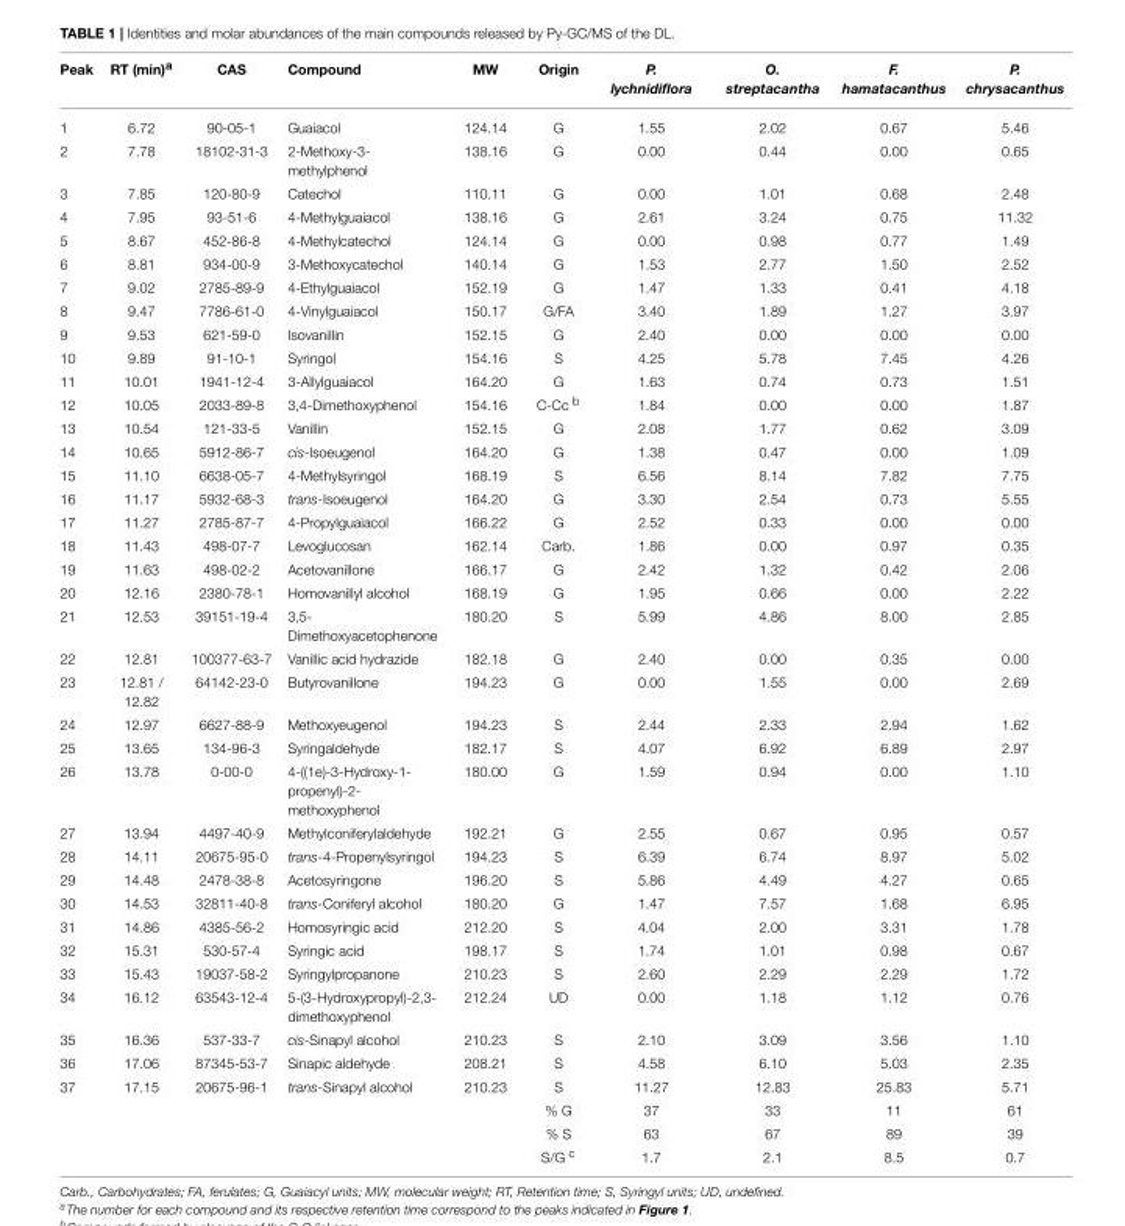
<table><thead><tr><td>Peak</td><td>RT (min)<sup>a</sup></td><td>CAS</td><td>Compound</td><td>MW</td><td>Origin</td><td>P. lychnidiflora</td><td>O. streptacantha</td><td>F. hamatacanthus</td><td>P. chrysacanthus</td></tr></thead><tbody><tr><td>1</td><td>6.72</td><td>90-05-1</td><td>Guaiacol</td><td>124.14</td><td>G</td><td>1.55</td><td>2.02</td><td>0.67</td><td>5.46</td></tr><tr><td>2</td><td>7.78</td><td>18102-31-3</td><td>2-Methoxy-3- methylphenol</td><td>138.16</td><td>G</td><td>0.00</td><td>0.44</td><td>0.00</td><td>0.65</td></tr><tr><td>3</td><td>7.85</td><td>120-80-9</td><td>Catechol</td><td>110.11</td><td>G</td><td>0.00</td><td>1.01</td><td>0.68</td><td>2.48</td></tr><tr><td>4</td><td>7.95</td><td>93-51-6</td><td>4-Methylguaiacol</td><td>138.16</td><td>G</td><td>2.61</td><td>3.24</td><td>0.75</td><td>11.32</td></tr><tr><td>5</td><td>8.67</td><td>452-86-8</td><td>4-Methylcatechol</td><td>124.14</td><td>G</td><td>0.00</td><td>0.98</td><td>0.77</td><td>1.49</td></tr><tr><td>6</td><td>8.81</td><td>934-00-9</td><td>3-Methoxycatechol</td><td>140.14</td><td>G</td><td>1.53</td><td>2.77</td><td>1.50</td><td>2.52</td></tr><tr><td>7</td><td>9.02</td><td>2785-89-9</td><td>4-Ethylguaiacol</td><td>152.19</td><td>G</td><td>1.47</td><td>1.33</td><td>0.41</td><td>4.18</td></tr><tr><td>8</td><td>9.47</td><td>7786-61-0</td><td>4-Vinylguaiacol</td><td>150.17</td><td>G/FA</td><td>3.40</td><td>1.89</td><td>1.27</td><td>3.97</td></tr><tr><td>9</td><td>9.53</td><td>621-59-0</td><td>Isovanillin</td><td>152.15</td><td>G</td><td>2.40</td><td>0.00</td><td>0.00</td><td>0.00</td></tr><tr><td>10</td><td>9.89</td><td>91-10-1</td><td>Syringol</td><td>154.16</td><td>S</td><td>4.25</td><td>5.78</td><td>7.45</td><td>4.26</td></tr><tr><td>11</td><td>10.01</td><td>1941-12-4</td><td>3-Allylguaiacol</td><td>164.20</td><td>G</td><td>1.63</td><td>0.74</td><td>0.73</td><td>1.51</td></tr><tr><td>12</td><td>10.05</td><td>2033-89-8</td><td>3,4-Dimethoxyphenol</td><td>154.16</td><td>C-Cc <sup>b</sup></td><td>1.84</td><td>0.00</td><td>0.00</td><td>1.87</td></tr><tr><td>13</td><td>10.54</td><td>121-33-5</td><td>Vanillin</td><td>152.15</td><td>G</td><td>2.08</td><td>1.77</td><td>0.62</td><td>3.09</td></tr><tr><td>14</td><td>10.65</td><td>5912-86-7</td><td>cis-Isoeugenol</td><td>164.20</td><td>G</td><td>1.38</td><td>0.47</td><td>0.00</td><td>1.09</td></tr><tr><td>15</td><td>11.10</td><td>6638-05-7</td><td>4-Methylsyringol</td><td>168.19</td><td>S</td><td>6.56</td><td>8.14</td><td>7.82</td><td>7.75</td></tr><tr><td>16</td><td>11.17</td><td>5932-68-3</td><td>trans-Isoeugenol</td><td>164.20</td><td>G</td><td>3.30</td><td>2.54</td><td>0.73</td><td>5.55</td></tr><tr><td>17</td><td>11.27</td><td>2785-87-7</td><td>4-Propylguaiacol</td><td>166.22</td><td>G</td><td>2.52</td><td>0.33</td><td>0.00</td><td>0.00</td></tr><tr><td>18</td><td>11.43</td><td>498-07-7</td><td>Levoglucosan</td><td>162.14</td><td>Carb.</td><td>1.86</td><td>0.00</td><td>0.97</td><td>0.35</td></tr><tr><td>19</td><td>11.63</td><td>498-02-2</td><td>Acetovanillone</td><td>166.17</td><td>G</td><td>2.42</td><td>1.32</td><td>0.42</td><td>2.06</td></tr><tr><td>20</td><td>12.16</td><td>2380-78-1</td><td>Homovanillyl alcohol</td><td>168.19</td><td>G</td><td>1.95</td><td>0.66</td><td>0.00</td><td>2.22</td></tr><tr><td>21</td><td>12.53</td><td>39151-19-4</td><td>3,5- Dimethoxyacetophenone</td><td>180.20</td><td>S</td><td>5.99</td><td>4.86</td><td>8.00</td><td>2.85</td></tr><tr><td>22</td><td>12.81</td><td>100377-63-7</td><td>Vanillic acid hydrazide</td><td>182.18</td><td>G</td><td>2.40</td><td>0.00</td><td>0.35</td><td>0.00</td></tr><tr><td>23</td><td>12.81 / 12.82</td><td>64142-23-0</td><td>Butyrovanillone</td><td>194.23</td><td>G</td><td>0.00</td><td>1.55</td><td>0.00</td><td>2.69</td></tr><tr><td>24</td><td>12.97</td><td>6627-88-9</td><td>Methoxyeugenol</td><td>194.23</td><td>S</td><td>2.44</td><td>2.33</td><td>2.94</td><td>1.62</td></tr><tr><td>25</td><td>13.65</td><td>134-96-3</td><td>Syringaldehyde</td><td>182.17</td><td>S</td><td>4.07</td><td>6.92</td><td>6.89</td><td>2.97</td></tr><tr><td>26</td><td>13.78</td><td>0-00-0</td><td>4-((1e)-3-Hydroxy-1- propenyl)-2- methoxyphenol</td><td>180.00</td><td>G</td><td>1.59</td><td>0.94</td><td>0.00</td><td>1.10</td></tr><tr><td>27</td><td>13.94</td><td>4497-40-9</td><td>Methylconiferylaldehyde</td><td>192.21</td><td>G</td><td>2.55</td><td>0.67</td><td>0.95</td><td>0.57</td></tr><tr><td>28</td><td>14.11</td><td>20675-95-0</td><td>trans-4-Propenylsyringol</td><td>194.23</td><td>S</td><td>6.39</td><td>6.74</td><td>8.97</td><td>5.02</td></tr><tr><td>29</td><td>14.48</td><td>2478-38-8</td><td>Acetosyringone</td><td>196.20</td><td>S</td><td>5.86</td><td>4.49</td><td>4.27</td><td>0.65</td></tr><tr><td>30</td><td>14.53</td><td>32811-40-8</td><td>trans-Coniferyl alcohol</td><td>180.20</td><td>G</td><td>1.47</td><td>7.57</td><td>1.68</td><td>6.95</td></tr><tr><td>31</td><td>14.86</td><td>4385-56-2</td><td>Homosyringic acid</td><td>212.20</td><td>S</td><td>4.04</td><td>2.00</td><td>3.31</td><td>1.78</td></tr><tr><td>32</td><td>15.31</td><td>530-57-4</td><td>Syringic acid</td><td>198.17</td><td>S</td><td>1.74</td><td>1.01</td><td>0.98</td><td>0.67</td></tr><tr><td>33</td><td>15.43</td><td>19037-58-2</td><td>Syringylpropanone</td><td>210.23</td><td>S</td><td>2.60</td><td>2.29</td><td>2.29</td><td>1.72</td></tr><tr><td>34</td><td>16.12</td><td>63543-12-4</td><td>5-(3-Hydroxypropyl)-2,3- dimethoxyphenol</td><td>212.24</td><td>UD</td><td>0.00</td><td>1.18</td><td>1.12</td><td>0.76</td></tr><tr><td>35</td><td>16.36</td><td>537-33-7</td><td>cis-Sinapyl alcohol</td><td>210.23</td><td>S</td><td>2.10</td><td>3.09</td><td>3.56</td><td>1.10</td></tr><tr><td>36</td><td>17.06</td><td>87345-53-7</td><td>Sinapic aldehyde</td><td>208.21</td><td>S</td><td>4.58</td><td>6.10</td><td>5.03</td><td>2.35</td></tr><tr><td rowspan="4">37</td><td>17.15</td><td>20675-96-1</td><td>trans-Sinapyl alcohol</td><td>210.23</td><td>S</td><td>11.27</td><td>12.83</td><td>25.83</td><td>5.71</td></tr><tr><td></td><td></td><td></td><td></td><td>% G</td><td>37</td><td>33</td><td>11</td><td>61</td></tr><tr><td></td><td></td><td></td><td></td><td>% S</td><td>63</td><td>67</td><td>89</td><td>39</td></tr><tr><td></td><td></td><td></td><td></td><td>S/G <sup>c</sup></td><td>1.7</td><td>2.1</td><td>8.5</td><td>0.7</td></tr></tbody></table>